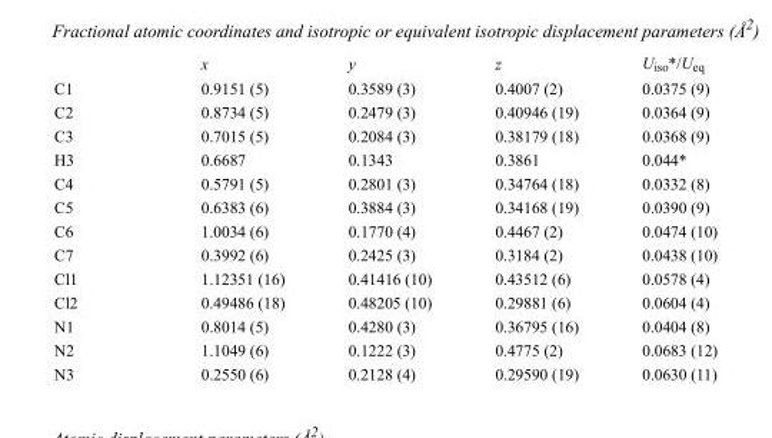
<table><thead><tr><td></td><td>x</td><td>y</td><td>z</td><td>U<sub>iso</sub>*/U<sub>eq</sub></td></tr></thead><tbody><tr><td>C1</td><td>0.9151 (5)</td><td>0.3589 (3)</td><td>0.4007 (2)</td><td>0.0375 (9)</td></tr><tr><td>C2</td><td>0.8734 (5)</td><td>0.2479 (3)</td><td>0.40946 (19)</td><td>0.0364 (9)</td></tr><tr><td>C3</td><td>0.7015 (5)</td><td>0.2084 (3)</td><td>0.38179 (18)</td><td>0.0368 (9)</td></tr><tr><td>H3</td><td>0.6687</td><td>0.1343</td><td>0.3861</td><td>0.044*</td></tr><tr><td>C4</td><td>0.5791 (5)</td><td>0.2801 (3)</td><td>0.34764 (18)</td><td>0.0332 (8)</td></tr><tr><td>C5</td><td>0.6383 (6)</td><td>0.3884 (3)</td><td>0.34168 (19)</td><td>0.0390 (9)</td></tr><tr><td>C6</td><td>1.0034 (6)</td><td>0.1770 (4)</td><td>0.4467 (2)</td><td>0.0474 (10)</td></tr><tr><td>C7</td><td>0.3992 (6)</td><td>0.2425 (3)</td><td>0.3184 (2)</td><td>0.0438 (10)</td></tr><tr><td>Cl1</td><td>1.12351 (16)</td><td>0.41416 (10)</td><td>0.43512 (6)</td><td>0.0578 (4)</td></tr><tr><td>Cl2</td><td>0.49486 (18)</td><td>0.48205 (10)</td><td>0.29881 (6)</td><td>0.0604 (4)</td></tr><tr><td>N1</td><td>0.8014 (5)</td><td>0.4280 (3)</td><td>0.36795 (16)</td><td>0.0404 (8)</td></tr><tr><td>N2</td><td>1.1049 (6)</td><td>0.1222 (3)</td><td>0.4775 (2)</td><td>0.0683 (12)</td></tr><tr><td>N3</td><td>0.2550 (6)</td><td>0.2128 (4)</td><td>0.29590 (19)</td><td>0.0630 (11)</td></tr></tbody></table>